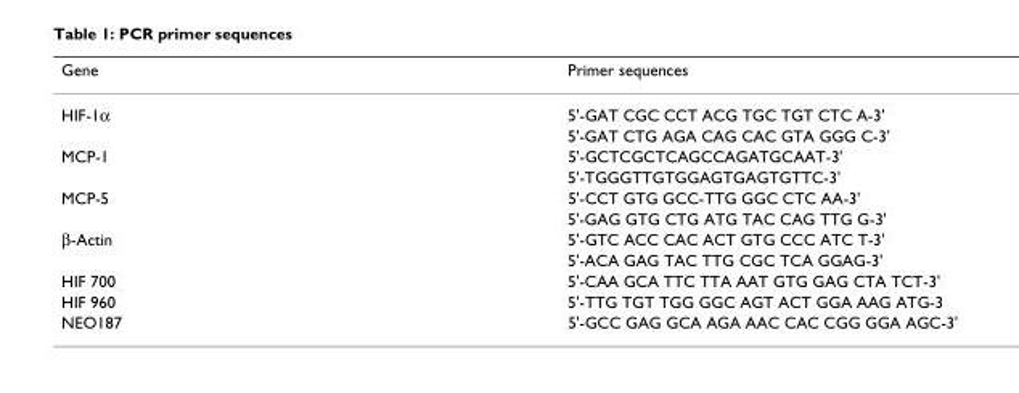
<table><thead><tr><td>Gene</td><td>Primer sequences</td></tr></thead><tbody><tr><td rowspan="2">HIF-1α</td><td>5&#x27;-GAT CGC CCT ACG TGC TGT CTC A-3&#x27;</td></tr><tr><td>5&#x27;-GAT CTG AGA CAG CAC GTA GGG C-3&#x27;</td></tr><tr><td rowspan="2">MCP-1</td><td>5&#x27;-GCTCGCTCAGCCAGATGCAAT-3&#x27;</td></tr><tr><td>5&#x27;-TGGGTTGTGGAGTGAGTGTTC-3&#x27;</td></tr><tr><td rowspan="2">MCP-5</td><td>5&#x27;-CCT GTG GCC-TTG GGC CTC AA-3&#x27;</td></tr><tr><td>5&#x27;-GAG GTG CTG ATG TAC CAG TTG G-3&#x27;</td></tr><tr><td rowspan="2">β-Actin</td><td>5&#x27;-GTC ACC CAC ACT GTG CCC ATC T-3&#x27;</td></tr><tr><td>5&#x27;-ACA GAG TAC TTG CGC TCA GGAG-3&#x27;</td></tr><tr><td>HIF 700</td><td>5&#x27;-CAA GCA TTC TTA AAT GTG GAG CTA TCT-3&#x27;</td></tr><tr><td>HIF 960</td><td>5&#x27;-TTG TGT TGG GGC AGT ACT GGA AAG ATG-3</td></tr><tr><td>NEO187</td><td>5&#x27;-GCC GAG GCA AGA AAC CAC CGG GGA AGC-3&#x27;</td></tr></tbody></table>